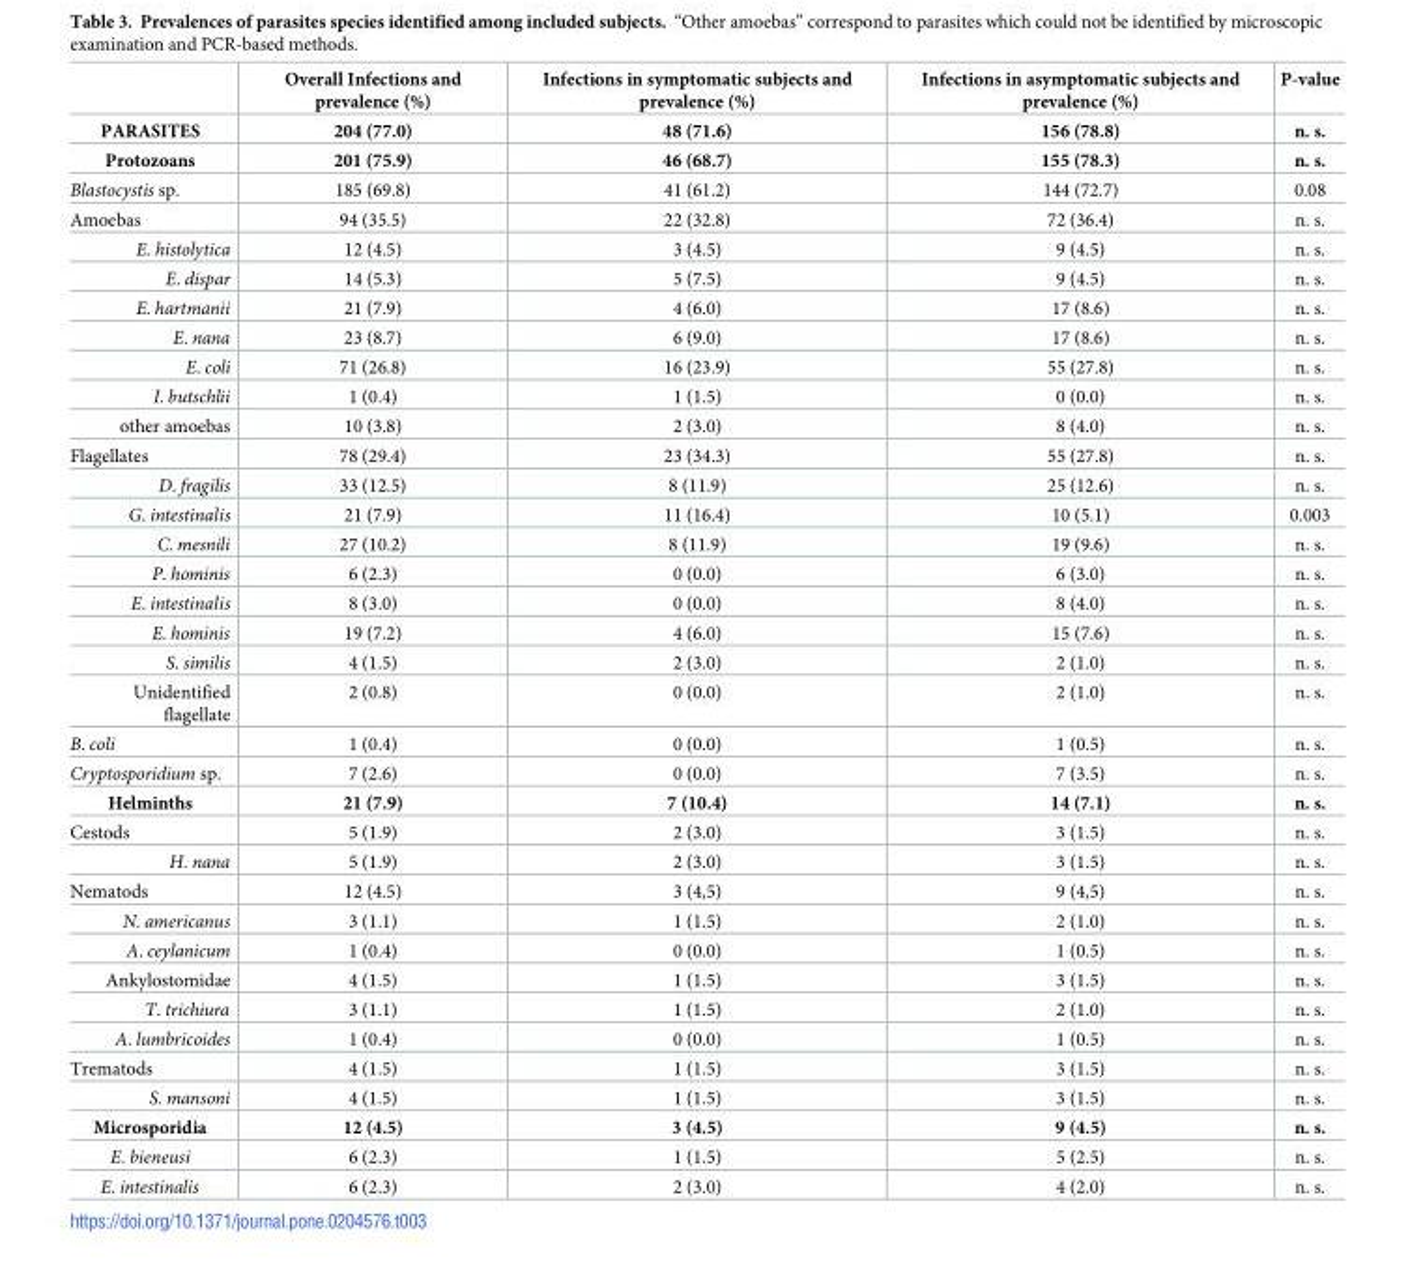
<table><thead><tr><td></td><td>Overall Infections and prevalence (%)</td><td>Infections in symptomatic subjects and prevalence (%)</td><td>Infections in asymptomatic subjects and prevalence (%)</td><td>P-value</td></tr></thead><tbody><tr><td>PARASITES</td><td>204 (77.0)</td><td>48 (71.6)</td><td>156 (78.8)</td><td>n. s.</td></tr><tr><td>Protozoans</td><td>201 (75.9)</td><td>46 (68.7)</td><td>155 (78.3)</td><td>n. s.</td></tr><tr><td>Blastocystis sp.</td><td>185 (69.8)</td><td>41 (61.2)</td><td>144 (72.7)</td><td>0.08</td></tr><tr><td>Amoebas</td><td>94 (35.5)</td><td>22 (32.8)</td><td>72 (36.4)</td><td>n. s.</td></tr><tr><td>E. histolytica</td><td>12 (4.5)</td><td>3 (4.5)</td><td>9 (4.5)</td><td>n. s.</td></tr><tr><td>E. dispar</td><td>14 (5.3)</td><td>5 (7.5)</td><td>9 (4.5)</td><td>n. s.</td></tr><tr><td>E. hartmanii</td><td>21 (7.9)</td><td>4 (6.0)</td><td>17 (8.6)</td><td>n. s.</td></tr><tr><td>E. nana</td><td>23 (8.7)</td><td>6 (9.0)</td><td>17 (8.6)</td><td>n. s.</td></tr><tr><td>E. coli</td><td>71 (26.8)</td><td>16 (23.9)</td><td>55 (27.8)</td><td>n. s.</td></tr><tr><td>I. butschlii</td><td>1 (0.4)</td><td>1 (1.5)</td><td>0 (0.0)</td><td>n. s.</td></tr><tr><td>other amoebas</td><td>10 (3.8)</td><td>2 (3.0)</td><td>8 (4.0)</td><td>n. s.</td></tr><tr><td>Flagellates</td><td>78 (29.4)</td><td>23 (34.3)</td><td>55 (27.8)</td><td>n. s.</td></tr><tr><td>D. fragilis</td><td>33 (12.5)</td><td>8 (11.9)</td><td>25 (12.6)</td><td>n. s.</td></tr><tr><td>G. intestinalis</td><td>21 (7.9)</td><td>11 (16.4)</td><td>10 (5.1)</td><td>0.003</td></tr><tr><td>C. mesnili</td><td>27 (10.2)</td><td>8 (11.9)</td><td>19 (9.6)</td><td>n. s.</td></tr><tr><td>P. hominis</td><td>6 (2.3)</td><td>0 (0.0)</td><td>6 (3.0)</td><td>n. s.</td></tr><tr><td>E. intestinalis</td><td>8 (3.0)</td><td>0 (0.0)</td><td>8 (4.0)</td><td>n. s.</td></tr><tr><td>E. hominis</td><td>19 (7.2)</td><td>4 (6.0)</td><td>15 (7.6)</td><td>n. s.</td></tr><tr><td>S. similis</td><td>4 (1.5)</td><td>2 (3.0)</td><td>2 (1.0)</td><td>n. s.</td></tr><tr><td>Unidentified flagellate</td><td>2 (0.8)</td><td>0 (0.0)</td><td>2 (1.0)</td><td>n. s.</td></tr><tr><td>B. coli</td><td>1 (0.4)</td><td>0 (0.0)</td><td>1 (0.5)</td><td>n. s.</td></tr><tr><td>Cryptosporidium sp.</td><td>7 (2.6)</td><td>0 (0.0)</td><td>7 (3.5)</td><td>n. s.</td></tr><tr><td>Helminths</td><td>21 (7.9)</td><td>7 (10.4)</td><td>14 (7.1)</td><td>n. s.</td></tr><tr><td>Cestods</td><td>5 (1.9)</td><td>2 (3.0)</td><td>3 (1.5)</td><td>n. s.</td></tr><tr><td>H. nana</td><td>5 (1.9)</td><td>2 (3.0)</td><td>3 (1.5)</td><td>n. s.</td></tr><tr><td>Nematods</td><td>12 (4.5)</td><td>3 (4,5)</td><td>9 (4,5)</td><td>n. s.</td></tr><tr><td>N. americanus</td><td>3 (1.1)</td><td>1 (1.5)</td><td>2 (1.0)</td><td>n. s.</td></tr><tr><td>A. ceylanicum</td><td>1 (0.4)</td><td>0 (0.0)</td><td>1 (0.5)</td><td>n. s.</td></tr><tr><td>Ankylostomidae</td><td>4 (1.5)</td><td>1 (1.5)</td><td>3 (1.5)</td><td>n. s.</td></tr><tr><td>T. trichiura</td><td>3 (1.1)</td><td>1 (1.5)</td><td>2 (1.0)</td><td>n. s.</td></tr><tr><td>A. lumbricoides</td><td>1 (0.4)</td><td>0 (0.0)</td><td>1 (0.5)</td><td>n. s.</td></tr><tr><td>Trematods</td><td>4 (1.5)</td><td>1 (1.5)</td><td>3 (1.5)</td><td>n. s.</td></tr><tr><td>S. mansoni</td><td>4 (1.5)</td><td>1 (1.5)</td><td>3 (1.5)</td><td>n. s.</td></tr><tr><td>Microsporidia</td><td>12 (4.5)</td><td>3 (4.5)</td><td>9 (4.5)</td><td>n. s.</td></tr><tr><td>E. bieneusi</td><td>6 (2.3)</td><td>1 (1.5)</td><td>5 (2.5)</td><td>n. s.</td></tr><tr><td>E. intestinalis</td><td>6 (2.3)</td><td>2 (3.0)</td><td>4 (2.0)</td><td>n. s.</td></tr></tbody></table>